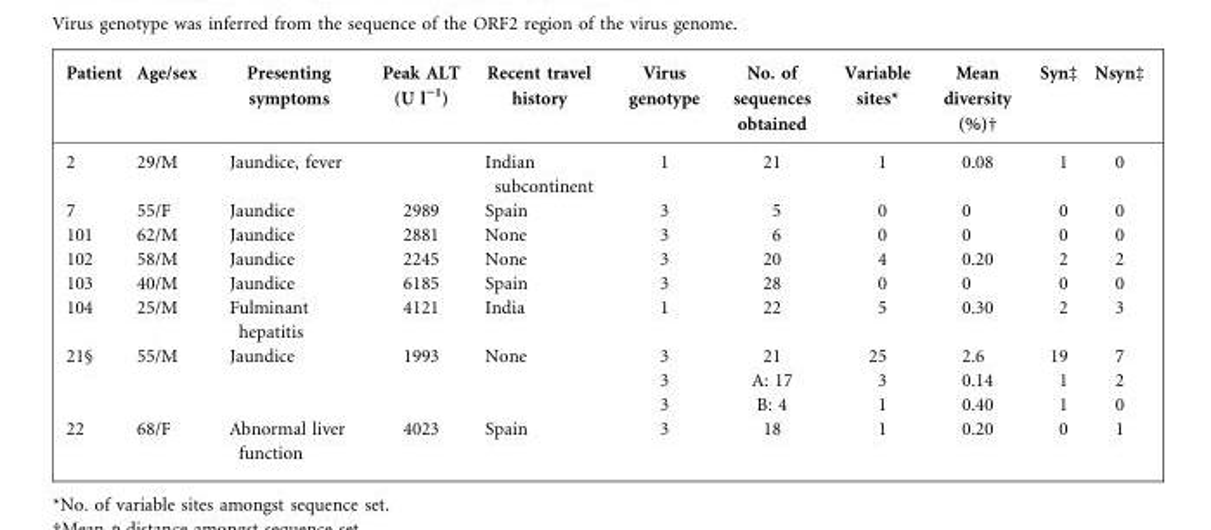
<table><thead><tr><td>Patient</td><td>Age/sex</td><td>Presenting symptoms</td><td>Peak ALT (U l”1)</td><td>Recent travel history</td><td>Virus genotype</td><td>No. of sequences obtained</td><td>Variable sites*</td><td>Mean diversity (%)†</td><td>Syn‡</td><td>Nsyn‡</td></tr></thead><tbody><tr><td>2</td><td>29/M</td><td>Jaundice, fever</td><td></td><td>Indian subcontinent</td><td>1</td><td>21</td><td>1</td><td>0.08</td><td>1</td><td>0</td></tr><tr><td>7</td><td>55/F</td><td>Jaundice</td><td>2989</td><td>Spain</td><td>3</td><td>5</td><td>0</td><td>0</td><td>0</td><td>0</td></tr><tr><td>101</td><td>62/M</td><td>Jaundice</td><td>2881</td><td>None</td><td>3</td><td>6</td><td>0</td><td>0</td><td>0</td><td>0</td></tr><tr><td>102</td><td>58/M</td><td>Jaundice</td><td>2245</td><td>None</td><td>3</td><td>20</td><td>4</td><td>0.20</td><td>2</td><td>2</td></tr><tr><td>103</td><td>40/M</td><td>Jaundice</td><td>6185</td><td>Spain</td><td>3</td><td>28</td><td>0</td><td>0</td><td>0</td><td>0</td></tr><tr><td>104</td><td>25/M</td><td>Fulminant hepatitis</td><td>4121</td><td>India</td><td>1</td><td>22</td><td>5</td><td>0.30</td><td>2</td><td>3</td></tr><tr><td rowspan="3">21§</td><td>55/M</td><td>Jaundice</td><td>1993</td><td>None</td><td>3</td><td>21</td><td>25</td><td>2.6</td><td>19</td><td>7</td></tr><tr><td></td><td></td><td></td><td></td><td>3</td><td>A: 17</td><td>3</td><td>0.14</td><td>1</td><td>2</td></tr><tr><td></td><td></td><td></td><td></td><td>3</td><td>B: 4</td><td>1</td><td>0.40</td><td>1</td><td>0</td></tr><tr><td>22</td><td>68/F</td><td>Abnormal liver function</td><td>4023</td><td>Spain</td><td>3</td><td>18</td><td>1</td><td>0.20</td><td>0</td><td>1</td></tr></tbody></table>